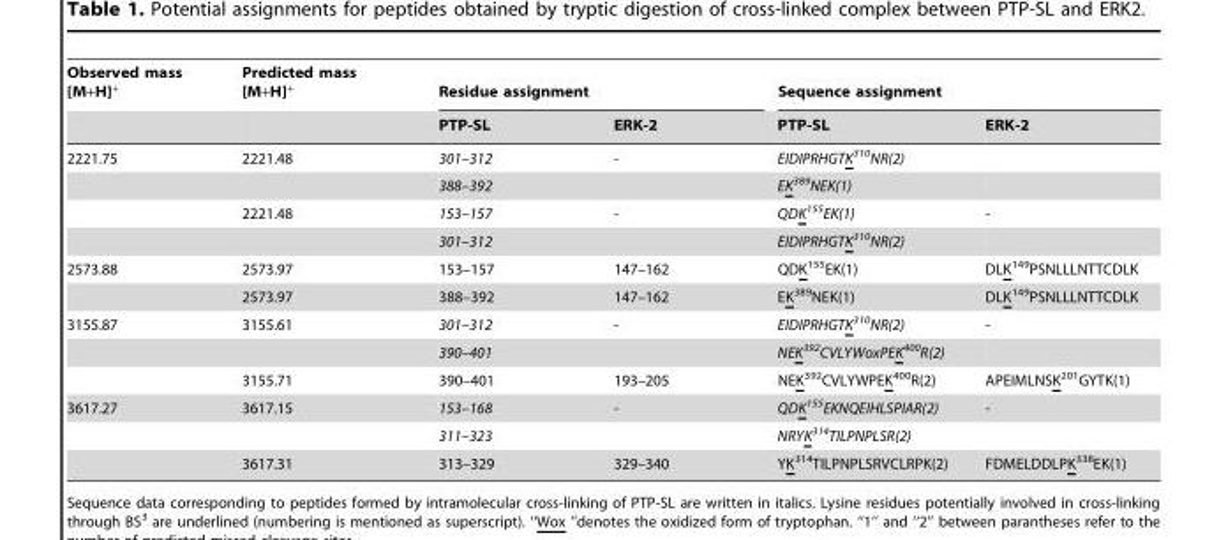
<table><thead><tr><td rowspan="2">Observed mass [M+H]<sup>+</sup></td><td rowspan="2">Predicted mass [M+H]<sup>+</sup></td><td colspan="2">Residue assignment</td><td colspan="2">Sequence assignment</td></tr><tr><td>PTP-SL</td><td>ERK-2</td><td>PTP-SL</td><td>ERK-2</td></tr></thead><tbody><tr><td rowspan="4">2221.75</td><td>2221.48</td><td>301–312</td><td>-</td><td>EIDIPRHGTK<sup>310</sup>NR(2)</td><td></td></tr><tr><td></td><td>388–392</td><td></td><td>EK<sup>389</sup>NEK(1)</td><td></td></tr><tr><td>2221.48</td><td>153–157</td><td>-</td><td>QDK<sup>155</sup>EK(1)</td><td>-</td></tr><tr><td></td><td>301–312</td><td></td><td>EIDIPRHGTK<sup>310</sup>NR(2)</td><td></td></tr><tr><td rowspan="2">2573.88</td><td>2573.97</td><td>153–157</td><td>147–162</td><td>QDK<sup>155</sup>EK(1)</td><td>DLK<sup>149</sup>PSNLLLNTTCDLK</td></tr><tr><td>2573.97</td><td>388–392</td><td>147–162</td><td>EK<sup>389</sup>NEK(1)</td><td>DLK<sup>149</sup>PSNLLLNTTCDLK</td></tr><tr><td rowspan="3">3155.87</td><td>3155.61</td><td>301–312</td><td>-</td><td>EIDIPRHGTK<sup>310</sup>NR(2)</td><td>-</td></tr><tr><td></td><td>390–401</td><td></td><td>NEK<sup>392</sup>CVLYWoxPEK<sup>400</sup>R(2)</td><td></td></tr><tr><td>3155.71</td><td>390–401</td><td>193–205</td><td>NEK<sup>392</sup>CVLYWPEK<sup>400</sup>R(2)</td><td>APEIMLNSK<sup>201</sup>GYTK(1)</td></tr><tr><td rowspan="3">3617.27</td><td>3617.15</td><td>153–168</td><td>-</td><td>QDK<sup>155</sup>EKNQEIHLSPIAR(2)</td><td>-</td></tr><tr><td></td><td>311–323</td><td></td><td>NRYK<sup>314</sup>TILPNPLSR(2)</td><td></td></tr><tr><td>3617.31</td><td>313–329</td><td>329–340</td><td>YK<sup>314</sup>TILPNPLSRVCLRPK(2)</td><td>FDMELDDLPK<sup>338</sup>EK(1)</td></tr></tbody></table>